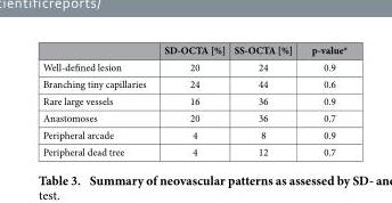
<table><thead><tr><td></td><td>SD-OCTA [%]</td><td>SS-OCTA [%]</td><td>p-value*</td></tr></thead><tbody><tr><td>Well-defined lesion</td><td>20</td><td>24</td><td>0.9</td></tr><tr><td>Branching tiny capillaries</td><td>24</td><td>44</td><td>0.6</td></tr><tr><td>Rare large vessels</td><td>16</td><td>36</td><td>0.9</td></tr><tr><td>Anastomoses</td><td>20</td><td>36</td><td>0.7</td></tr><tr><td>Peripheral arcade</td><td>4</td><td>8</td><td>0.9</td></tr><tr><td>Peripheral dead tree</td><td>4</td><td>12</td><td>0.7</td></tr></tbody></table>